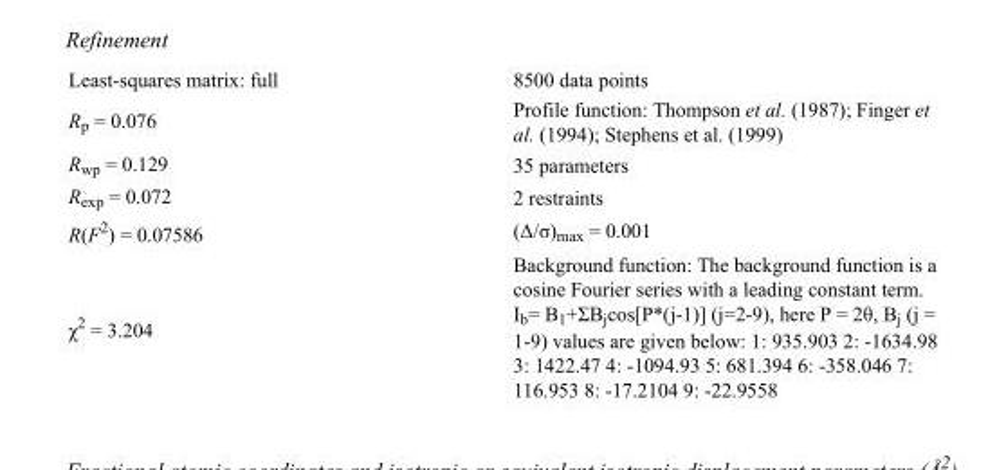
<table><tbody><tr><td>Least-squares matrix: full</td><td>8500 data points</td></tr><tr><td>R<sub>p</sub> = 0.076</td><td>Profile function: Thompson et al. (1987); Finger et al. (1994); Stephens et al. (1999)</td></tr><tr><td>R<sub>wp</sub> = 0.129</td><td>35 parameters</td></tr><tr><td>R<sub>exp</sub> = 0.072</td><td>2 restraints</td></tr><tr><td>R(F<sup>2</sup>) = 0.07586</td><td>(Δ/σ)<sub>max</sub> = 0.001</td></tr><tr><td>χ<sup>2</sup> = 3.204</td><td>Background function: The background function is a cosine Fourier series with a leading constant term. I<sub>b</sub>= B<sub>1</sub>+ΣB<sub>j</sub>cos[P*(j-1)] (j=2-9), here P = 2θ, B<sub>j</sub> (j = 1-9) values are given below: 1: 935.903 2: -1634.98 3: 1422.47 4: -1094.93 5: 681.394 6: -358.046 7: 116.953 8: -17.2104 9: -22.9558</td></tr></tbody></table>